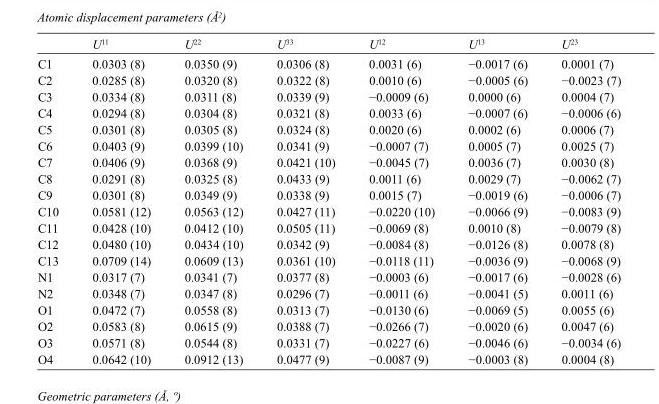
<table><thead><tr><td></td><td>U<sup>11</sup></td><td>U<sup>22</sup></td><td>U<sup>33</sup></td><td>U<sup>12</sup></td><td>U<sup>13</sup></td><td>U<sup>23</sup></td></tr></thead><tbody><tr><td>C1</td><td>0.0303 (8)</td><td>0.0350 (9)</td><td>0.0306 (8)</td><td>0.0031 (6)</td><td>−0.0017 (6)</td><td>0.0001 (7)</td></tr><tr><td>C2</td><td>0.0285 (8)</td><td>0.0320 (8)</td><td>0.0322 (8)</td><td>0.0010 (6)</td><td>−0.0005 (6)</td><td>−0.0023 (7)</td></tr><tr><td>C3</td><td>0.0334 (8)</td><td>0.0311 (8)</td><td>0.0339 (9)</td><td>−0.0009 (6)</td><td>0.0000 (6)</td><td>0.0004 (7)</td></tr><tr><td>C4</td><td>0.0294 (8)</td><td>0.0304 (8)</td><td>0.0321 (8)</td><td>0.0033 (6)</td><td>−0.0007 (6)</td><td>−0.0006 (6)</td></tr><tr><td>C5</td><td>0.0301 (8)</td><td>0.0305 (8)</td><td>0.0324 (8)</td><td>0.0020 (6)</td><td>0.0002 (6)</td><td>0.0006 (7)</td></tr><tr><td>C6</td><td>0.0403 (9)</td><td>0.0399 (10)</td><td>0.0341 (9)</td><td>−0.0007 (7)</td><td>0.0005 (7)</td><td>0.0025 (7)</td></tr><tr><td>C7</td><td>0.0406 (9)</td><td>0.0368 (9)</td><td>0.0421 (10)</td><td>−0.0045 (7)</td><td>0.0036 (7)</td><td>0.0030 (8)</td></tr><tr><td>C8</td><td>0.0291 (8)</td><td>0.0325 (8)</td><td>0.0433 (9)</td><td>0.0011 (6)</td><td>0.0029 (7)</td><td>−0.0062 (7)</td></tr><tr><td>C9</td><td>0.0301 (8)</td><td>0.0349 (9)</td><td>0.0338 (9)</td><td>0.0015 (7)</td><td>−0.0019 (6)</td><td>−0.0006 (7)</td></tr><tr><td>C10</td><td>0.0581 (12)</td><td>0.0563 (12)</td><td>0.0427 (11)</td><td>−0.0220 (10)</td><td>−0.0066 (9)</td><td>−0.0083 (9)</td></tr><tr><td>C11</td><td>0.0428 (10)</td><td>0.0412 (10)</td><td>0.0505 (11)</td><td>−0.0069 (8)</td><td>0.0010 (8)</td><td>−0.0079 (8)</td></tr><tr><td>C12</td><td>0.0480 (10)</td><td>0.0434 (10)</td><td>0.0342 (9)</td><td>−0.0084 (8)</td><td>−0.0126 (8)</td><td>0.0078 (8)</td></tr><tr><td>C13</td><td>0.0709 (14)</td><td>0.0609 (13)</td><td>0.0361 (10)</td><td>−0.0118 (11)</td><td>−0.0036 (9)</td><td>−0.0068 (9)</td></tr><tr><td>N1</td><td>0.0317 (7)</td><td>0.0341 (7)</td><td>0.0377 (8)</td><td>−0.0003 (6)</td><td>−0.0017 (6)</td><td>−0.0028 (6)</td></tr><tr><td>N2</td><td>0.0348 (7)</td><td>0.0347 (8)</td><td>0.0296 (7)</td><td>−0.0011 (6)</td><td>−0.0041 (5)</td><td>0.0011 (6)</td></tr><tr><td>O1</td><td>0.0472 (7)</td><td>0.0558 (8)</td><td>0.0313 (7)</td><td>−0.0130 (6)</td><td>−0.0069 (5)</td><td>0.0055 (6)</td></tr><tr><td>O2</td><td>0.0583 (8)</td><td>0.0615 (9)</td><td>0.0388 (7)</td><td>−0.0266 (7)</td><td>−0.0020 (6)</td><td>0.0047 (6)</td></tr><tr><td>O3</td><td>0.0571 (8)</td><td>0.0544 (8)</td><td>0.0331 (7)</td><td>−0.0227 (6)</td><td>−0.0046 (6)</td><td>−0.0034 (6)</td></tr><tr><td>O4</td><td>0.0642 (10)</td><td>0.0912 (13)</td><td>0.0477 (9)</td><td>−0.0087 (9)</td><td>−0.0003 (8)</td><td>0.0004 (8)</td></tr></tbody></table>